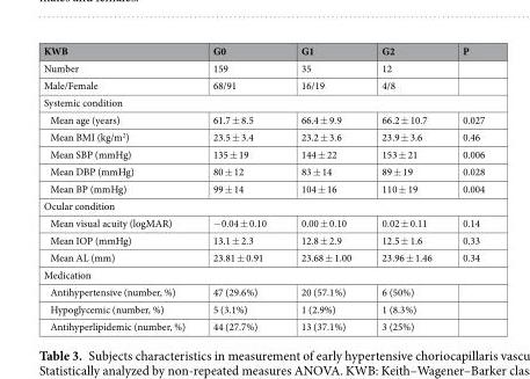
<table><thead><tr><td>KWB</td><td>G0</td><td>G1</td><td>G2</td><td>P</td></tr></thead><tbody><tr><td>Number</td><td>159</td><td>35</td><td>12</td><td></td></tr><tr><td>Male/Female</td><td>68/91</td><td>16/19</td><td>4/8</td><td></td></tr><tr><td colspan="5">Systemic condition</td></tr><tr><td>Mean age (years)</td><td>61.7 ± 8.5</td><td>66.4 ± 9.9</td><td>66.2 ± 10.7</td><td>0.027</td></tr><tr><td>Mean BMI (kg/m<sup>2</sup>)</td><td>23.5 ± 3.4</td><td>23.2 ± 3.6</td><td>23.9 ± 3.6</td><td>0.46</td></tr><tr><td>Mean SBP (mmHg)</td><td>135 ± 19</td><td>144 ± 22</td><td>153 ± 21</td><td>0.006</td></tr><tr><td>Mean DBP (mmHg)</td><td>80 ± 12</td><td>83 ± 14</td><td>89 ± 19</td><td>0.028</td></tr><tr><td>Mean BP (mmHg)</td><td>99 ± 14</td><td>104 ± 16</td><td>110 ± 19</td><td>0.004</td></tr><tr><td colspan="5">Ocular condition</td></tr><tr><td>Mean visual acuity (logMAR)</td><td>−0.04 ± 0.10</td><td>0.00 ± 0.10</td><td>0.02 ± 0.11</td><td>0.14</td></tr><tr><td>Mean IOP (mmHg)</td><td>13.1 ± 2.3</td><td>12.8 ± 2.9</td><td>12.5 ± 1.6</td><td>0.33</td></tr><tr><td>Mean AL (mm)</td><td>23.81 ± 0.91</td><td>23.68 ± 1.00</td><td>23.96 ± 1.46</td><td>0.34</td></tr><tr><td colspan="5">Medication</td></tr><tr><td>Antihypertensive (number, %)</td><td>47 (29.6%)</td><td>20 (57.1%)</td><td>6 (50%)</td><td></td></tr><tr><td>Hypoglycemic (number, %)</td><td>5 (3.1%)</td><td>1 (2.9%)</td><td>1 (8.3%)</td><td></td></tr><tr><td>Antihyperlipidemic (number, %)</td><td>44 (27.7%)</td><td>13 (37.1%)</td><td>3 (25%)</td><td></td></tr></tbody></table>